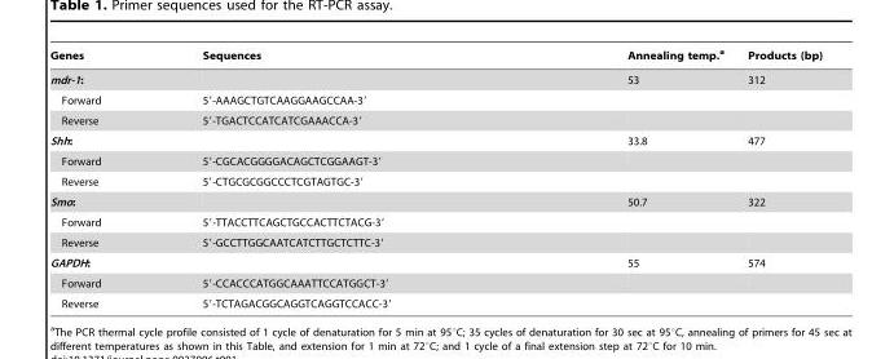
<table><thead><tr><td>Genes</td><td>Sequences</td><td>Annealing temp.<sup>a</sup></td><td>Products (bp)</td></tr></thead><tbody><tr><td>mdr-1:</td><td></td><td>53</td><td>312</td></tr><tr><td>Forward</td><td>5′-AAAGCTGTCAAGGAAGCCAA-3′</td><td></td><td></td></tr><tr><td>Reverse</td><td>5′-TGACTCCATCATCGAAACCA-3′</td><td></td><td></td></tr><tr><td>Shh:</td><td></td><td>33.8</td><td>477</td></tr><tr><td>Forward</td><td>5′-CGCACGGGGACAGCTCGGAAGT-3′</td><td></td><td></td></tr><tr><td>Reverse</td><td>5′-CTGCGCGGCCCTCGTAGTGC-3′</td><td></td><td></td></tr><tr><td>Smo:</td><td></td><td>50.7</td><td>322</td></tr><tr><td>Forward</td><td>5′-TTACCTTCAGCTGCCACTTCTACG-3′</td><td></td><td></td></tr><tr><td>Reverse</td><td>5′-GCCTTGGCAATCATCTTGCTCTTC-3′</td><td></td><td></td></tr><tr><td>GAPDH:</td><td></td><td>55</td><td>574</td></tr><tr><td>Forward</td><td>5′-CCACCCATGGCAAATTCCATGGCT-3′</td><td></td><td></td></tr><tr><td>Reverse</td><td>5′-TCTAGACGGCAGGTCAGGTCCACC-3′</td><td></td><td></td></tr></tbody></table>